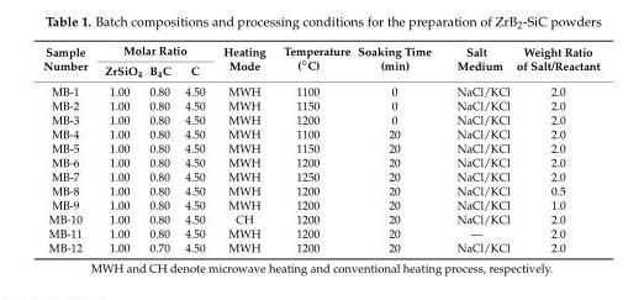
<table><thead><tr><td rowspan="2">Sample Number</td><td colspan="3">Molar Ratio</td><td rowspan="2">Heating Mode</td><td rowspan="2">Temperature (◦C)</td><td rowspan="2">Soaking Time (min)</td><td rowspan="2">Salt Medium</td><td rowspan="2">Weight Ratio of Salt/Reactant</td></tr><tr><td>ZrSiO<sub>4</sub></td><td>B<sub>4</sub>C</td><td>C</td></tr></thead><tbody><tr><td>MB-1</td><td>1.00</td><td>0.80</td><td>4.50</td><td>MWH</td><td>1100</td><td>0</td><td>NaCl/KCl</td><td>2.0</td></tr><tr><td>MB-2</td><td>1.00</td><td>0.80</td><td>4.50</td><td>MWH</td><td>1150</td><td>0</td><td>NaCl/KCl</td><td>2.0</td></tr><tr><td>MB-3</td><td>1.00</td><td>0.80</td><td>4.50</td><td>MWH</td><td>1200</td><td>0</td><td>NaCl/KCl</td><td>2.0</td></tr><tr><td>MB-4</td><td>1.00</td><td>0.80</td><td>4.50</td><td>MWH</td><td>1100</td><td>20</td><td>NaCl/KCl</td><td>2.0</td></tr><tr><td>MB-5</td><td>1.00</td><td>0.80</td><td>4.50</td><td>MWH</td><td>1150</td><td>20</td><td>NaCl/KCl</td><td>2.0</td></tr><tr><td>MB-6</td><td>1.00</td><td>0.80</td><td>4.50</td><td>MWH</td><td>1200</td><td>20</td><td>NaCl/KCl</td><td>2.0</td></tr><tr><td>MB-7</td><td>1.00</td><td>0.80</td><td>4.50</td><td>MWH</td><td>1250</td><td>20</td><td>NaCl/KCl</td><td>2.0</td></tr><tr><td>MB-8</td><td>1.00</td><td>0.80</td><td>4.50</td><td>MWH</td><td>1200</td><td>20</td><td>NaCl/KCl</td><td>0.5</td></tr><tr><td>MB-9</td><td>1.00</td><td>0.80</td><td>4.50</td><td>MWH</td><td>1200</td><td>20</td><td>NaCl/KCl</td><td>1.0</td></tr><tr><td>MB-10</td><td>1.00</td><td>0.80</td><td>4.50</td><td>CH</td><td>1200</td><td>20</td><td>NaCl/KCl</td><td>2.0</td></tr><tr><td>MB-11</td><td>1.00</td><td>0.80</td><td>4.50</td><td>MWH</td><td>1200</td><td>20</td><td>—</td><td>2.0</td></tr><tr><td>MB-12</td><td>1.00</td><td>0.70</td><td>4.50</td><td>MWH</td><td>1200</td><td>20</td><td>NaCl/KCl</td><td>2.0</td></tr></tbody></table>